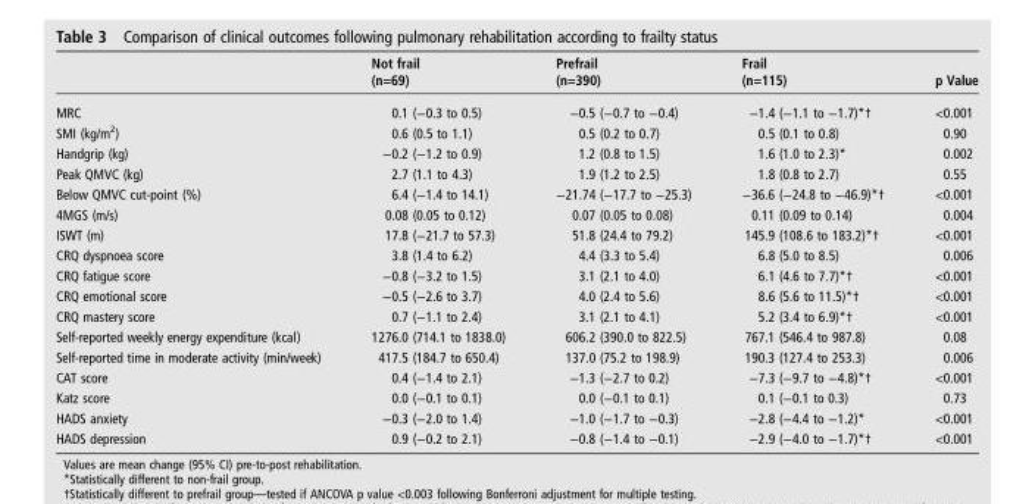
<table><thead><tr><td></td><td>Not frail (n=69)</td><td>Prefrail (n=390)</td><td>Frail (n=115)</td><td>p Value</td></tr></thead><tbody><tr><td>MRC</td><td>0.1 (−0.3 to 0.5)</td><td>−0.5 (−0.7 to −0.4)</td><td>−1.4 (−1.1 to −1.7)*†</td><td>&lt;0.001</td></tr><tr><td>SMI (kg/m<sup>2</sup>)</td><td>0.6 (0.5 to 1.1)</td><td>0.5 (0.2 to 0.7)</td><td>0.5 (0.1 to 0.8)</td><td>0.90</td></tr><tr><td>Handgrip (kg)</td><td>−0.2 (−1.2 to 0.9)</td><td>1.2 (0.8 to 1.5)</td><td>1.6 (1.0 to 2.3)*</td><td>0.002</td></tr><tr><td>Peak QMVC (kg)</td><td>2.7 (1.1 to 4.3)</td><td>1.9 (1.2 to 2.5)</td><td>1.8 (0.8 to 2.7)</td><td>0.55</td></tr><tr><td>Below QMVC cut-point (%)</td><td>6.4 (−1.4 to 14.1)</td><td>−21.74 (−17.7 to −25.3)</td><td>−36.6 (−24.8 to −46.9)*†</td><td>&lt;0.001</td></tr><tr><td>4MGS (m/s)</td><td>0.08 (0.05 to 0.12)</td><td>0.07 (0.05 to 0.08)</td><td>0.11 (0.09 to 0.14)</td><td>0.004</td></tr><tr><td>ISWT (m)</td><td>17.8 (−21.7 to 57.3)</td><td>51.8 (24.4 to 79.2)</td><td>145.9 (108.6 to 183.2)*†</td><td>&lt;0.001</td></tr><tr><td>CRQ dyspnoea score</td><td>3.8 (1.4 to 6.2)</td><td>4.4 (3.3 to 5.4)</td><td>6.8 (5.0 to 8.5)</td><td>0.006</td></tr><tr><td>CRQ fatigue score</td><td>−0.8 (−3.2 to 1.5)</td><td>3.1 (2.1 to 4.0)</td><td>6.1 (4.6 to 7.7)*†</td><td>&lt;0.001</td></tr><tr><td>CRQ emotional score</td><td>−0.5 (−2.6 to 3.7)</td><td>4.0 (2.4 to 5.6)</td><td>8.6 (5.6 to 11.5)*†</td><td>&lt;0.001</td></tr><tr><td>CRQ mastery score</td><td>0.7 (−1.1 to 2.4)</td><td>3.1 (2.1 to 4.1)</td><td>5.2 (3.4 to 6.9)*†</td><td>&lt;0.001</td></tr><tr><td>Self-reported weekly energy expenditure (kcal)</td><td>1276.0 (714.1 to 1838.0)</td><td>606.2 (390.0 to 822.5)</td><td>767.1 (546.4 to 987.8)</td><td>0.08</td></tr><tr><td>Self-reported time in moderate activity (min/week)</td><td>417.5 (184.7 to 650.4)</td><td>137.0 (75.2 to 198.9)</td><td>190.3 (127.4 to 253.3)</td><td>0.006</td></tr><tr><td>CAT score</td><td>0.4 (−1.4 to 2.1)</td><td>−1.3 (−2.7 to 0.2)</td><td>−7.3 (−9.7 to −4.8)*†</td><td>&lt;0.001</td></tr><tr><td>Katz score</td><td>0.0 (−0.1 to 0.1)</td><td>0.0 (−0.1 to 0.1)</td><td>0.1 (−0.1 to 0.3)</td><td>0.73</td></tr><tr><td>HADS anxiety</td><td>−0.3 (−2.0 to 1.4)</td><td>−1.0 (−1.7 to −0.3)</td><td>−2.8 (−4.4 to −1.2)*</td><td>&lt;0.001</td></tr><tr><td>HADS depression</td><td>0.9 (−0.2 to 2.1)</td><td>−0.8 (−1.4 to −0.1)</td><td>−2.9 (−4.0 to −1.7)*†</td><td>&lt;0.001</td></tr></tbody></table>